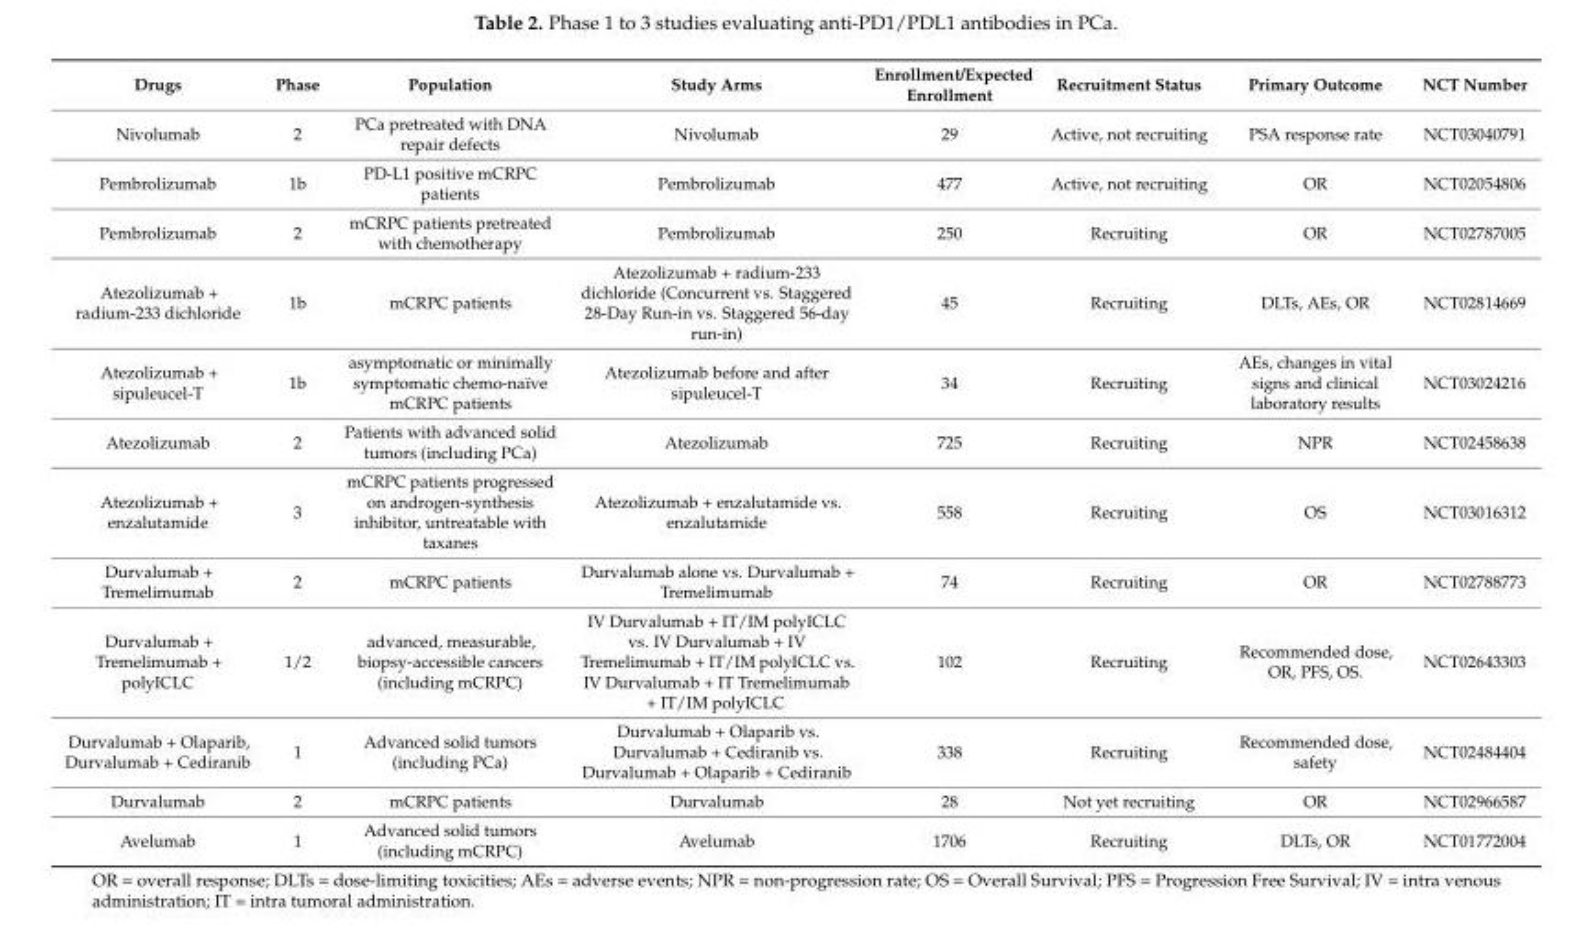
<table><thead><tr><td>Drugs</td><td>Phase</td><td>Population</td><td>Study Arms</td><td>Enrollment/Expected Enrollment</td><td>Recruitment Status</td><td>Primary Outcome</td><td>NCT Number</td></tr></thead><tbody><tr><td>Nivolumab</td><td>2</td><td>PCa pretreated with DNA repair defects</td><td>Nivolumab</td><td>29</td><td>Active, not recruiting</td><td>PSA response rate</td><td>NCT03040791</td></tr><tr><td>Pembrolizumab</td><td>1b</td><td>PD-L1 positive mCRPC patients</td><td>Pembrolizumab</td><td>477</td><td>Active, not recruiting</td><td>OR</td><td>NCT02054806</td></tr><tr><td>Pembrolizumab</td><td>2</td><td>mCRPC patients pretreated with chemotherapy</td><td>Pembrolizumab</td><td>250</td><td>Recruiting</td><td>OR</td><td>NCT02787005</td></tr><tr><td>Atezolizumab + radium-233 dichloride</td><td>1b</td><td>mCRPC patients</td><td>Atezolizumab + radium-233 dichloride (Concurrent vs. Staggered 28-Day Run-in vs. Staggered 56-day run-in)</td><td>45</td><td>Recruiting</td><td>DLTs, AEs, OR</td><td>NCT02814669</td></tr><tr><td>Atezolizumab + sipuleucel-T</td><td>1b</td><td>asymptomatic or minimally symptomatic chemo-naïve mCRPC patients</td><td>Atezolizumab before and after sipuleucel-T</td><td>34</td><td>Recruiting</td><td>AEs, changes in vital signs and clinical laboratory results</td><td>NCT03024216</td></tr><tr><td>Atezolizumab</td><td>2</td><td>Patients with advanced solid tumors (including PCa)</td><td>Atezolizumab</td><td>725</td><td>Recruiting</td><td>NPR</td><td>NCT02458638</td></tr><tr><td>Atezolizumab + enzalutamide</td><td>3</td><td>mCRPC patients progressed on androgen-synthesis inhibitor, untreatable with taxanes</td><td>Atezolizumab + enzalutamide vs. enzalutamide</td><td>558</td><td>Recruiting</td><td>OS</td><td>NCT03016312</td></tr><tr><td>Durvalumab + Tremelimumab</td><td>2</td><td>mCRPC patients</td><td>Durvalumab alone vs. Durvalumab + Tremelimumab</td><td>74</td><td>Recruiting</td><td>OR</td><td>NCT02788773</td></tr><tr><td>Durvalumab + Tremelimumab + polyICLC</td><td>1/2</td><td>advanced, measurable, biopsy-accessible cancers (including mCRPC)</td><td>IV Durvalumab + IT/IM polyICLC vs. IV Durvalumab + IV Tremelimumab + IT/IM polyICLC vs. IV Durvalumab + IT Tremelimumab + IT/IM polyICLC</td><td>102</td><td>Recruiting</td><td>Recommended dose, OR, PFS, OS.</td><td>NCT02643303</td></tr><tr><td>Durvalumab + Olaparib, Durvalumab + Cediranib</td><td>1</td><td>Advanced solid tumors (including PCa)</td><td>Durvalumab + Olaparib vs. Durvalumab + Cediranib vs. Durvalumab + Olaparib + Cediranib</td><td>338</td><td>Recruiting</td><td>Recommended dose, safety</td><td>NCT02484404</td></tr><tr><td>Durvalumab</td><td>2</td><td>mCRPC patients</td><td>Durvalumab</td><td>28</td><td>Not yet recruiting</td><td>OR</td><td>NCT02966587</td></tr><tr><td>Avelumab</td><td>1</td><td>Advanced solid tumors (including mCRPC)</td><td>Avelumab</td><td>1706</td><td>Recruiting</td><td>DLTs, OR</td><td>NCT01772004</td></tr></tbody></table>